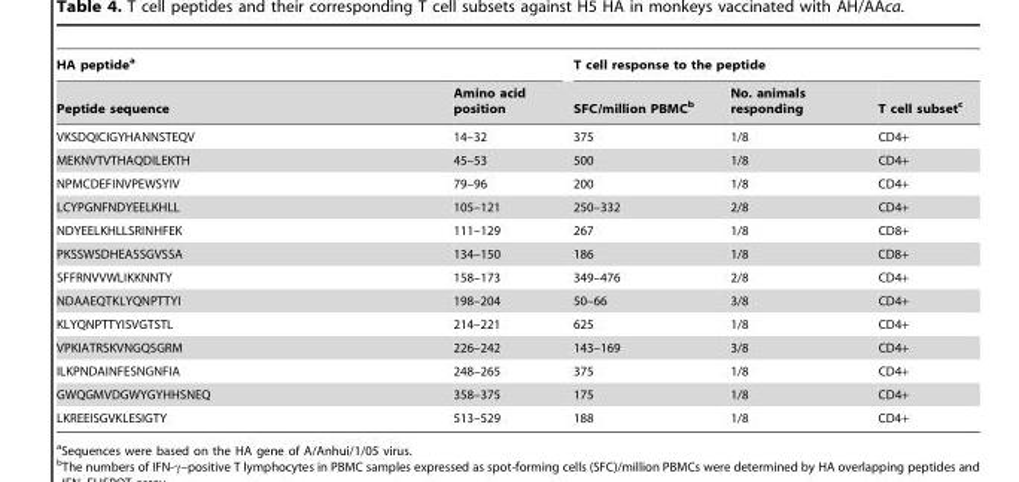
<table><thead><tr><td colspan="2">HA peptide<sup>a</sup></td><td colspan="3">T cell response to the peptide</td></tr><tr><td>Peptide sequence</td><td>Amino acid position</td><td>SFC/million PBMC<sup>b</sup></td><td>No. animals responding</td><td>T cell subset<sup>c</sup></td></tr></thead><tbody><tr><td>VKSDQICIGYHANNSTEQV</td><td>14–32</td><td>375</td><td>1/8</td><td>CD4+</td></tr><tr><td>MEKNVTVTHAQDILEKTH</td><td>45–53</td><td>500</td><td>1/8</td><td>CD4+</td></tr><tr><td>NPMCDEFINVPEWSYIV</td><td>79–96</td><td>200</td><td>1/8</td><td>CD4+</td></tr><tr><td>LCYPGNFNDYEELKHLL</td><td>105–121</td><td>250–332</td><td>2/8</td><td>CD4+</td></tr><tr><td>NDYEELKHLLSRINHFEK</td><td>111–129</td><td>267</td><td>1/8</td><td>CD8+</td></tr><tr><td>PKSSWSDHEASSGVSSA</td><td>134–150</td><td>186</td><td>1/8</td><td>CD8+</td></tr><tr><td>SFFRNVVWLIKKNNTY</td><td>158–173</td><td>349–476</td><td>2/8</td><td>CD4+</td></tr><tr><td>NDAAEQTKLYQNPTTYI</td><td>198–204</td><td>50–66</td><td>3/8</td><td>CD4+</td></tr><tr><td>KLYQNPTTYISVGTSTL</td><td>214–221</td><td>625</td><td>1/8</td><td>CD4+</td></tr><tr><td>VPKIATRSKVNGQSGRM</td><td>226–242</td><td>143–169</td><td>3/8</td><td>CD4+</td></tr><tr><td>ILKPNDAINFESNGNFIA</td><td>248–265</td><td>375</td><td>1/8</td><td>CD4+</td></tr><tr><td>GWQGMVDGWYGYHHSNEQ</td><td>358–375</td><td>175</td><td>1/8</td><td>CD4+</td></tr><tr><td>LKREEISGVKLESIGTY</td><td>513–529</td><td>188</td><td>1/8</td><td>CD4+</td></tr></tbody></table>